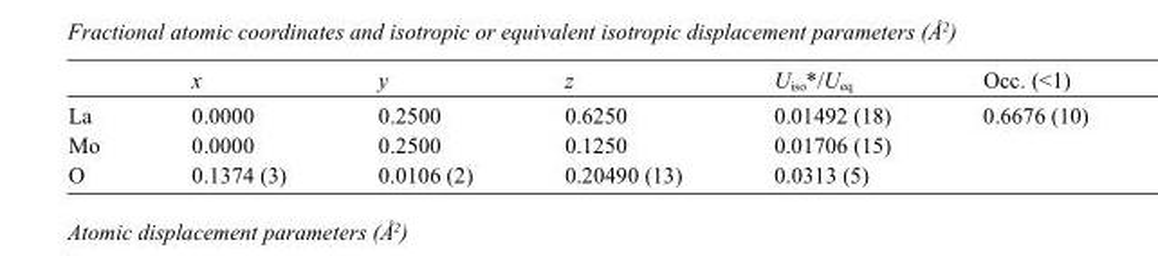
<table><thead><tr><td></td><td>x</td><td>y</td><td>z</td><td>U<sub>iso</sub>*/U<sub>eq</sub></td><td>Occ. (&lt;1)</td></tr></thead><tbody><tr><td>La</td><td>0.0000</td><td>0.2500</td><td>0.6250</td><td>0.01492 (18)</td><td>0.6676 (10)</td></tr><tr><td>Mo</td><td>0.0000</td><td>0.2500</td><td>0.1250</td><td>0.01706 (15)</td><td></td></tr><tr><td>O</td><td>0.1374 (3)</td><td>0.0106 (2)</td><td>0.20490 (13)</td><td>0.0313 (5)</td><td></td></tr></tbody></table>